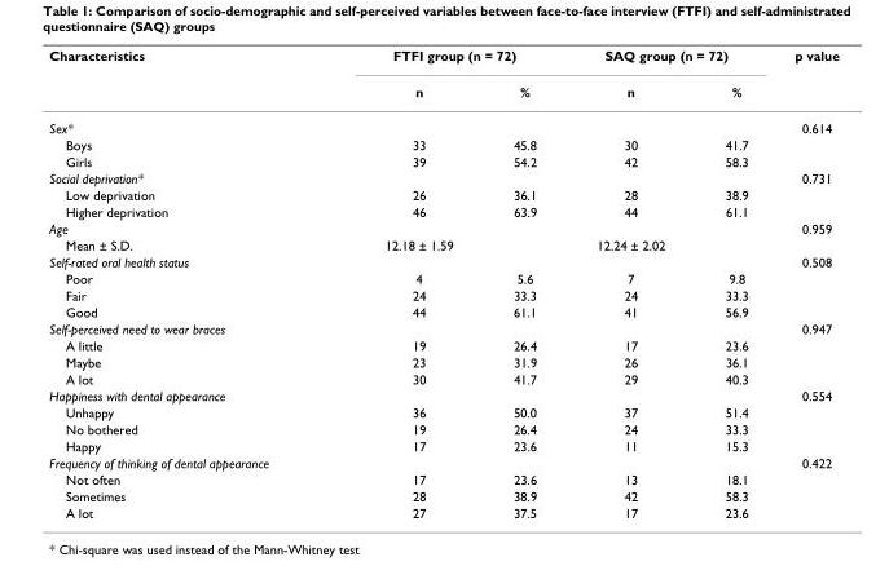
<table><thead><tr><td rowspan="2">Characteristics</td><td colspan="2">FTFI group (n = 72)</td><td colspan="2">SAQ group (n = 72)</td><td rowspan="2">p value</td></tr><tr><td>n</td><td>%</td><td>n</td><td>%</td></tr></thead><tbody><tr><td>Sex*</td><td></td><td></td><td></td><td></td><td>0.614</td></tr><tr><td>Boys</td><td>33</td><td>45.8</td><td>30</td><td>41.7</td><td></td></tr><tr><td>Girls</td><td>39</td><td>54.2</td><td>42</td><td>58.3</td><td></td></tr><tr><td>Social deprivation*</td><td></td><td></td><td></td><td></td><td>0.731</td></tr><tr><td>Low deprivation</td><td>26</td><td>36.1</td><td>28</td><td>38.9</td><td></td></tr><tr><td>Higher deprivation</td><td>46</td><td>63.9</td><td>44</td><td>61.1</td><td></td></tr><tr><td>Age</td><td></td><td></td><td></td><td></td><td>0.959</td></tr><tr><td>Mean ± S.D.</td><td>12.18 ± 1.59</td><td></td><td>12.24 ± 2.02</td><td></td><td></td></tr><tr><td>Self-rated oral health status</td><td></td><td></td><td></td><td></td><td>0.508</td></tr><tr><td>Poor</td><td>4</td><td>5.6</td><td>7</td><td>9.8</td><td></td></tr><tr><td>Fair</td><td>24</td><td>33.3</td><td>24</td><td>33.3</td><td></td></tr><tr><td>Good</td><td>44</td><td>61.1</td><td>41</td><td>56.9</td><td></td></tr><tr><td>Self-perceived need to wear braces</td><td></td><td></td><td></td><td></td><td>0.947</td></tr><tr><td>A little</td><td>19</td><td>26.4</td><td>17</td><td>23.6</td><td></td></tr><tr><td>Maybe</td><td>23</td><td>31.9</td><td>26</td><td>36.1</td><td></td></tr><tr><td>A lot</td><td>30</td><td>41.7</td><td>29</td><td>40.3</td><td></td></tr><tr><td>Happiness with dental appearance</td><td></td><td></td><td></td><td></td><td>0.554</td></tr><tr><td>Unhappy</td><td>36</td><td>50.0</td><td>37</td><td>51.4</td><td></td></tr><tr><td>No bothered</td><td>19</td><td>26.4</td><td>24</td><td>33.3</td><td></td></tr><tr><td>Happy</td><td>17</td><td>23.6</td><td>11</td><td>15.3</td><td></td></tr><tr><td>Frequency of thinking of dental appearance</td><td></td><td></td><td></td><td></td><td>0.422</td></tr><tr><td>Not often</td><td>17</td><td>23.6</td><td>13</td><td>18.1</td><td></td></tr><tr><td>Sometimes</td><td>28</td><td>38.9</td><td>42</td><td>58.3</td><td></td></tr><tr><td>A lot</td><td>27</td><td>37.5</td><td>17</td><td>23.6</td><td></td></tr></tbody></table>